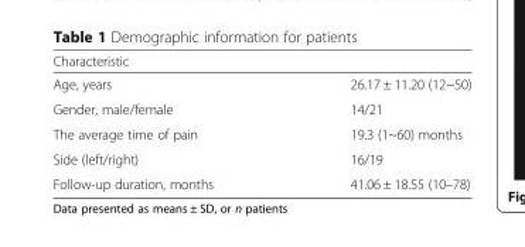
<table><thead><tr><td>Characteristic</td><td></td></tr></thead><tbody><tr><td>Age, years</td><td>26.17 ± 11.20 (12~50)</td></tr><tr><td>Gender, male/female</td><td>14/21</td></tr><tr><td>The average time of pain</td><td>19.3 (1~60) months</td></tr><tr><td>Side (left/right)</td><td>16/19</td></tr><tr><td>Follow-up duration, months</td><td>41.06 ± 18.55 (10–78)</td></tr></tbody></table>